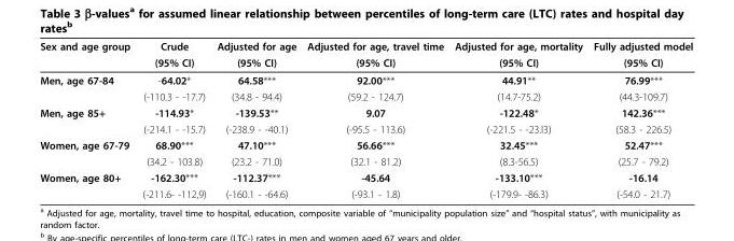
<table><thead><tr><td rowspan="2">Sex and age group</td><td rowspan="2">Crude (95% CI)</td><td rowspan="2">Adjusted for age (95% CI)</td><td rowspan="2">Adjusted for age, travel time (95% CI)</td><td rowspan="2">Adjusted for age, mortality (95% CI)</td><td rowspan="2">Fully adjusted model (95% CI)</td></tr><tr></tr></thead><tbody><tr><td rowspan="2">Men, age 67-84</td><td>-64.02*</td><td>64.58***</td><td>92.00***</td><td>44.91**</td><td>76.99***</td></tr><tr><td>(-110.3 - -17.7)</td><td>(34.8 - 94.4)</td><td>(59.2 - 124.7)</td><td>(14.7-75.2)</td><td>(44.3-109.7)</td></tr><tr><td rowspan="2">Men, age 85+</td><td>-114.93*</td><td>-139.53**</td><td>9.07</td><td>-122.48*</td><td>142.36***</td></tr><tr><td>(-214.1 - -15.7)</td><td>(-238.9 - -40.1)</td><td>(-95.5 - 113.6)</td><td>(-221.5 - -23.l3)</td><td>(58.3 - 226.5)</td></tr><tr><td rowspan="2">Women, age 67-79</td><td>68.90***</td><td>47.10***</td><td>56.66***</td><td>32.45***</td><td>52.47***</td></tr><tr><td>(34.2 - 103.8)</td><td>(23.2 - 71.0)</td><td>(32.1 - 81.2)</td><td>(8.3-56.5)</td><td>(25.7 - 79.2)</td></tr><tr><td rowspan="2">Women, age 80+</td><td>-162.30***</td><td>-112.37***</td><td>-45.64</td><td>-133.10***</td><td>-16.14</td></tr><tr><td>(-211.6- -112,9)</td><td>(-160.1 - -64.6)</td><td>(-93.1 - 1.8)</td><td>(-179.9- -86.3)</td><td>(-54.0 - 21.7)</td></tr></tbody></table>